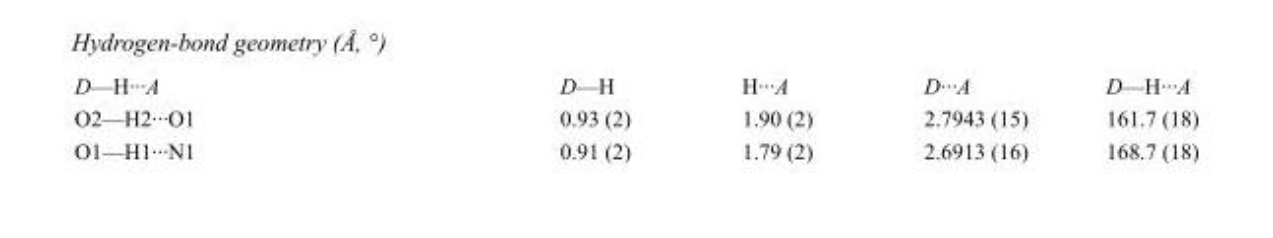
<table><tbody><tr><td>D—H···A</td><td>D—H</td><td>H···A</td><td>D···A</td><td>D—H···A</td></tr><tr><td>O2—H2···O1</td><td>0.93 (2)</td><td>1.90 (2)</td><td>2.7943 (15)</td><td>161.7 (18)</td></tr><tr><td>O1—H1···N1</td><td>0.91 (2)</td><td>1.79 (2)</td><td>2.6913 (16)</td><td>168.7 (18)</td></tr></tbody></table>